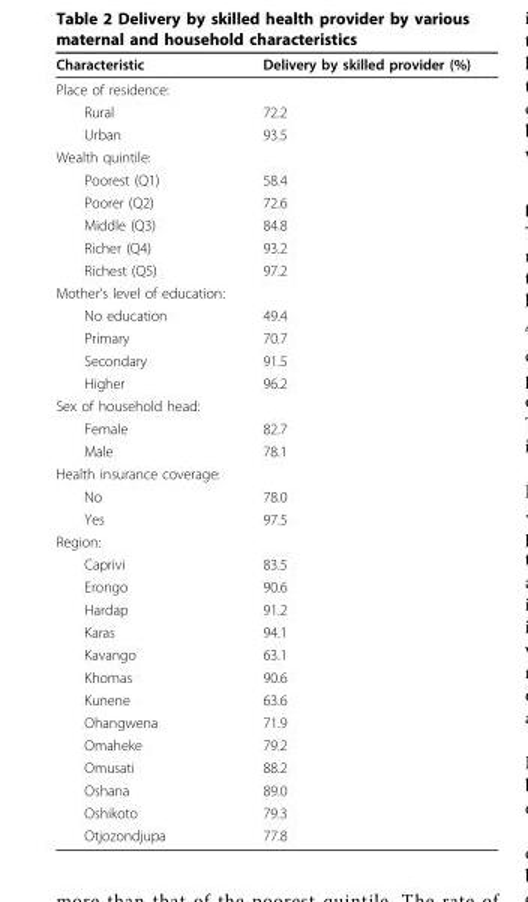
<table><thead><tr><td>Characteristic</td><td>Delivery by skilled provider (%)</td></tr></thead><tbody><tr><td colspan="2">Place of residence:</td></tr><tr><td>Rural</td><td>72.2</td></tr><tr><td>Urban</td><td>93.5</td></tr><tr><td colspan="2">Wealth quintile:</td></tr><tr><td>Poorest (Q1)</td><td>58.4</td></tr><tr><td>Poorer (Q2)</td><td>72.6</td></tr><tr><td>Middle (Q3)</td><td>84.8</td></tr><tr><td>Richer (Q4)</td><td>93.2</td></tr><tr><td>Richest (Q5)</td><td>97.2</td></tr><tr><td colspan="2">Mother’s level of education:</td></tr><tr><td>No education</td><td>49.4</td></tr><tr><td>Primary</td><td>70.7</td></tr><tr><td>Secondary</td><td>91.5</td></tr><tr><td>Higher</td><td>96.2</td></tr><tr><td colspan="2">Sex of household head:</td></tr><tr><td>Female</td><td>82.7</td></tr><tr><td>Male</td><td>78.1</td></tr><tr><td colspan="2">Health insurance coverage:</td></tr><tr><td>No</td><td>78.0</td></tr><tr><td>Yes</td><td>97.5</td></tr><tr><td colspan="2">Region:</td></tr><tr><td>Caprivi</td><td>83.5</td></tr><tr><td>Erongo</td><td>90.6</td></tr><tr><td>Hardap</td><td>91.2</td></tr><tr><td>Karas</td><td>94.1</td></tr><tr><td>Kavango</td><td>63.1</td></tr><tr><td>Khomas</td><td>90.6</td></tr><tr><td>Kunene</td><td>63.6</td></tr><tr><td>Ohangwena</td><td>71.9</td></tr><tr><td>Omaheke</td><td>79.2</td></tr><tr><td>Omusati</td><td>88.2</td></tr><tr><td>Oshana</td><td>89.0</td></tr><tr><td>Oshikoto</td><td>79.3</td></tr><tr><td>Otjozondjupa</td><td>77.8</td></tr></tbody></table>